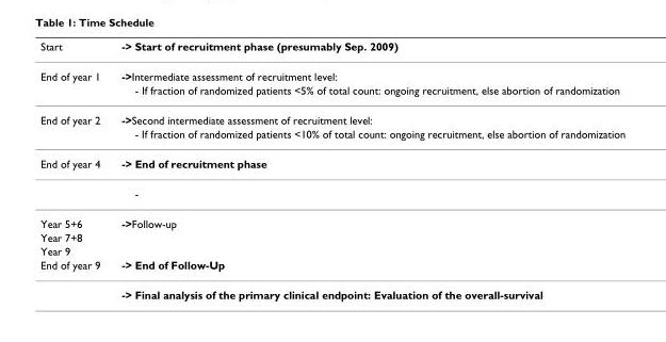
<table><thead><tr><td>Start</td><td>-&gt; Start of recruitment phase (presumably Sep. 2009)</td></tr></thead><tbody><tr><td rowspan="2">End of year 1</td><td>-&gt;Intermediate assessment of recruitment level:</td></tr><tr><td>- If fraction of randomized patients &lt;5% of total count: ongoing recruitment, else abortion of randomization</td></tr><tr><td rowspan="2">End of year 2</td><td>-&gt;Second intermediate assessment of recruitment level:</td></tr><tr><td>- If fraction of randomized patients &lt;10% of total count: ongoing recruitment, else abortion of randomization</td></tr><tr><td rowspan="2">End of year 4</td><td>-&gt; End of recruitment phase</td></tr><tr><td>-</td></tr><tr><td>Year 5+6</td><td>-&gt;Follow-up</td></tr><tr><td colspan="2">Year 7+8</td></tr><tr><td colspan="2">Year 9</td></tr><tr><td rowspan="2">End of year 9</td><td>-&gt; End of Follow-Up</td></tr><tr><td>-&gt; Final analysis of the primary clinical endpoint: Evaluation of the overall-survival</td></tr></tbody></table>